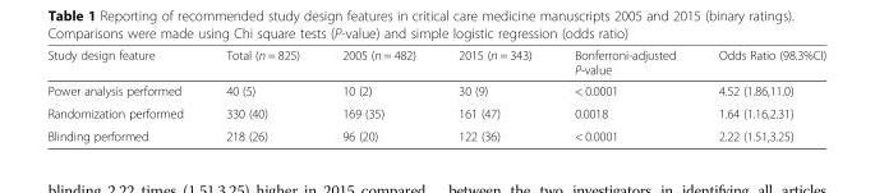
<table><thead><tr><td>Study design feature</td><td>Total (n = 825)</td><td>2005 (n = 482)</td><td>2015 (n = 343)</td><td>Bonferroni-adjusted P-value</td><td>Odds Ratio (98.3%CI)</td></tr></thead><tbody><tr><td>Power analysis performed</td><td>40 (5)</td><td>10 (2)</td><td>30 (9)</td><td>&lt; 0.0001</td><td>4.52 (1.86,11.0)</td></tr><tr><td>Randomization performed</td><td>330 (40)</td><td>169 (35)</td><td>161 (47)</td><td>0.0018</td><td>1.64 (1.16,2.31)</td></tr><tr><td>Blinding performed</td><td>218 (26)</td><td>96 (20)</td><td>122 (36)</td><td>&lt; 0.0001</td><td>2.22 (1.51,3.25)</td></tr></tbody></table>